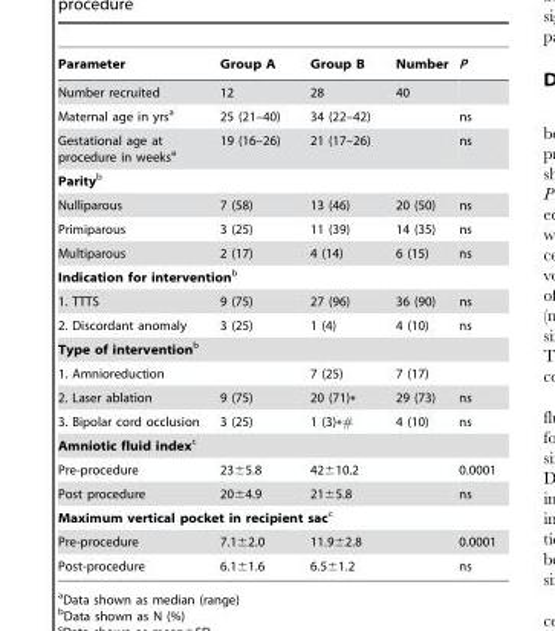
<table><thead><tr><td>Parameter</td><td>Group A</td><td>Group B</td><td>Number</td><td>P</td></tr></thead><tbody><tr><td>Number recruited</td><td>12</td><td>28</td><td>40</td><td></td></tr><tr><td>Maternal age in yrs<sup>a</sup></td><td>25 (21–40)</td><td>34 (22–42)</td><td></td><td>ns</td></tr><tr><td>Gestational age at procedure in weeks<sup>a</sup></td><td>19 (16–26)</td><td>21 (17–26)</td><td></td><td>ns</td></tr><tr><td colspan="5">Parityb</td></tr><tr><td>Nulliparous</td><td>7 (58)</td><td>13 (46)</td><td>20 (50)</td><td>ns</td></tr><tr><td>Primiparous</td><td>3 (25)</td><td>11 (39)</td><td>14 (35)</td><td>ns</td></tr><tr><td>Multiparous</td><td>2 (17)</td><td>4 (14)</td><td>6 (15)</td><td>ns</td></tr><tr><td colspan="5">Indication for interventionb</td></tr><tr><td>1. TTTS</td><td>9 (75)</td><td>27 (96)</td><td>36 (90)</td><td>ns</td></tr><tr><td>2. Discordant anomaly</td><td>3 (25)</td><td>1 (4)</td><td>4 (10)</td><td>ns</td></tr><tr><td colspan="5">Type of interventionb</td></tr><tr><td>1. Amnioreduction</td><td></td><td>7 (25)</td><td>7 (17)</td><td></td></tr><tr><td>2. Laser ablation</td><td>9 (75)</td><td>20 (71)*</td><td>29 (73)</td><td>ns</td></tr><tr><td>3. Bipolar cord occlusion</td><td>3 (25)</td><td>1 (3)*#</td><td>4 (10)</td><td>ns</td></tr><tr><td colspan="5">Amniotic fluid indexc</td></tr><tr><td>Pre-procedure</td><td>23±5.8</td><td>42±10.2</td><td></td><td>0.0001</td></tr><tr><td>Post procedure</td><td>20±4.9</td><td>21±5.8</td><td></td><td>ns</td></tr><tr><td colspan="5">Maximum vertical pocket in recipient sacc</td></tr><tr><td>Pre-procedure</td><td>7.1±2.0</td><td>11.9±2.8</td><td></td><td>0.0001</td></tr><tr><td>Post-procedure</td><td>6.1±1.6</td><td>6.5±1.2</td><td></td><td>ns</td></tr></tbody></table>